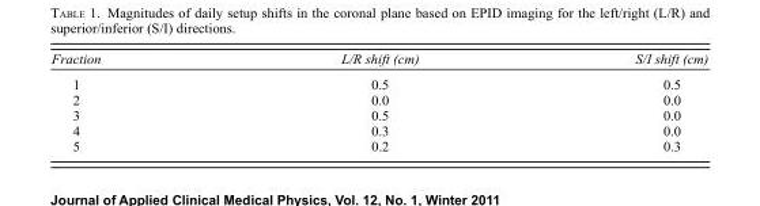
<table><thead><tr><td>Fraction</td><td>L/R shift (cm)</td><td>S/I shift (cm)</td></tr></thead><tbody><tr><td>1</td><td>0.5</td><td>0.5</td></tr><tr><td>2</td><td>0.0</td><td>0.0</td></tr><tr><td>3</td><td>0.5</td><td>0.0</td></tr><tr><td>4</td><td>0.3</td><td>0.0</td></tr><tr><td>5</td><td>0.2</td><td>0.3</td></tr></tbody></table>